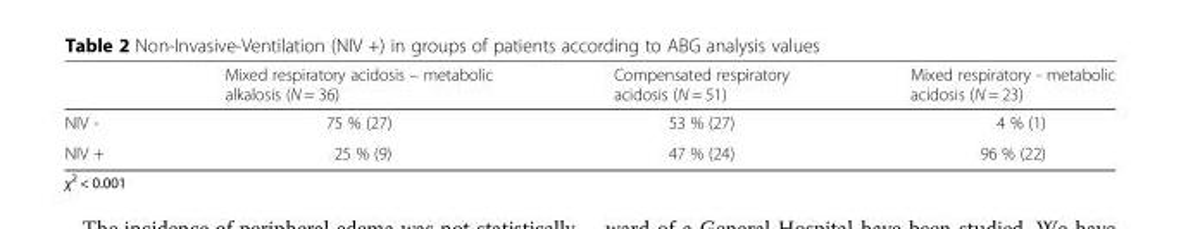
<table><thead><tr><td></td><td>Mixed respiratory acidosis – metabolic alkalosis (N = 36)</td><td>Compensated respiratory acidosis (N = 51)</td><td>Mixed respiratory - metabolic acidosis (N = 23)</td></tr></thead><tbody><tr><td>NIV -</td><td>75 % (27)</td><td>53 % (27)</td><td>4 % (1)</td></tr><tr><td>NIV +</td><td>25 % (9)</td><td>47 % (24)</td><td>96 % (22)</td></tr></tbody></table>